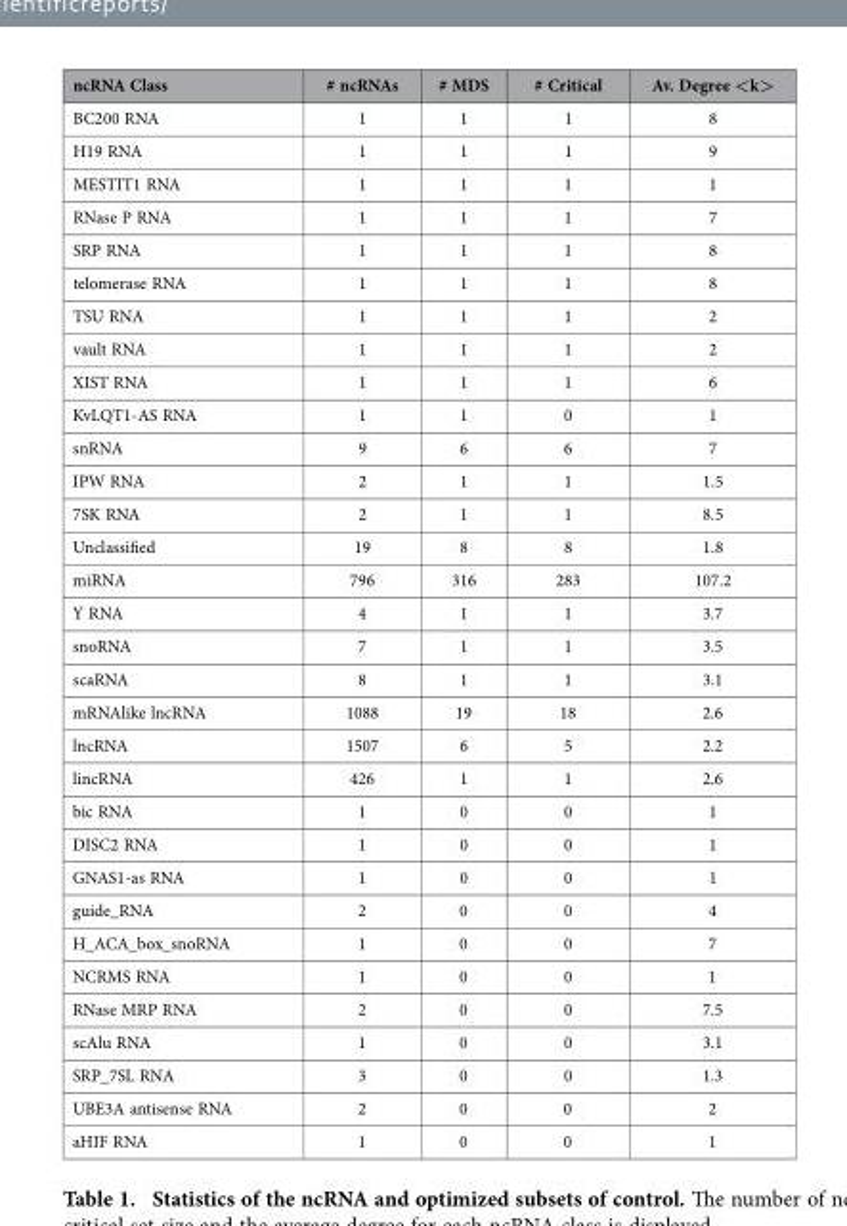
<table><thead><tr><td>ncRNA Class</td><td># ncRNAs</td><td># MDS</td><td># Critical</td><td>Av. Degree &lt;k&gt;</td></tr></thead><tbody><tr><td>BC200 RNA</td><td>1</td><td>1</td><td>1</td><td>8</td></tr><tr><td>H19 RNA</td><td>1</td><td>1</td><td>1</td><td>9</td></tr><tr><td>MESTIT1 RNA</td><td>1</td><td>1</td><td>1</td><td>1</td></tr><tr><td>RNase P RNA</td><td>1</td><td>1</td><td>1</td><td>7</td></tr><tr><td>SRP RNA</td><td>1</td><td>1</td><td>1</td><td>8</td></tr><tr><td>telomerase RNA</td><td>1</td><td>1</td><td>1</td><td>8</td></tr><tr><td>TSU RNA</td><td>1</td><td>1</td><td>1</td><td>2</td></tr><tr><td>vault RNA</td><td>1</td><td>1</td><td>1</td><td>2</td></tr><tr><td>XIST RNA</td><td>1</td><td>1</td><td>1</td><td>6</td></tr><tr><td>KvLQT1-AS RNA</td><td>1</td><td>1</td><td>0</td><td>1</td></tr><tr><td>snRNA</td><td>9</td><td>6</td><td>6</td><td>7</td></tr><tr><td>IPW RNA</td><td>2</td><td>1</td><td>1</td><td>1.5</td></tr><tr><td>7SK RNA</td><td>2</td><td>1</td><td>1</td><td>8.5</td></tr><tr><td>Unclassified</td><td>19</td><td>8</td><td>8</td><td>1.8</td></tr><tr><td>miRNA</td><td>796</td><td>316</td><td>283</td><td>107.2</td></tr><tr><td>Y RNA</td><td>4</td><td>1</td><td>1</td><td>3.7</td></tr><tr><td>snoRNA</td><td>7</td><td>1</td><td>1</td><td>3.5</td></tr><tr><td>scaRNA</td><td>8</td><td>1</td><td>1</td><td>3.1</td></tr><tr><td>mRNAlike lncRNA</td><td>1088</td><td>19</td><td>18</td><td>2.6</td></tr><tr><td>lncRNA</td><td>1507</td><td>6</td><td>5</td><td>2.2</td></tr><tr><td>lincRNA</td><td>426</td><td>1</td><td>1</td><td>2.6</td></tr><tr><td>bic RNA</td><td>1</td><td>0</td><td>0</td><td>1</td></tr><tr><td>DISC2 RNA</td><td>1</td><td>0</td><td>0</td><td>1</td></tr><tr><td>GNAS1-as RNA</td><td>1</td><td>0</td><td>0</td><td>1</td></tr><tr><td>guide_RNA</td><td>2</td><td>0</td><td>0</td><td>4</td></tr><tr><td>H_ACA_box_snoRNA</td><td>1</td><td>0</td><td>0</td><td>7</td></tr><tr><td>NCRMS RNA</td><td>1</td><td>0</td><td>0</td><td>1</td></tr><tr><td>RNase MRP RNA</td><td>2</td><td>0</td><td>0</td><td>7.5</td></tr><tr><td>scAlu RNA</td><td>1</td><td>0</td><td>0</td><td>3.1</td></tr><tr><td>SRP_7SL RNA</td><td>3</td><td>0</td><td>0</td><td>1.3</td></tr><tr><td>UBE3A antisense RNA</td><td>2</td><td>0</td><td>0</td><td>2</td></tr><tr><td>aHIF RNA</td><td>1</td><td>0</td><td>0</td><td>1</td></tr></tbody></table>